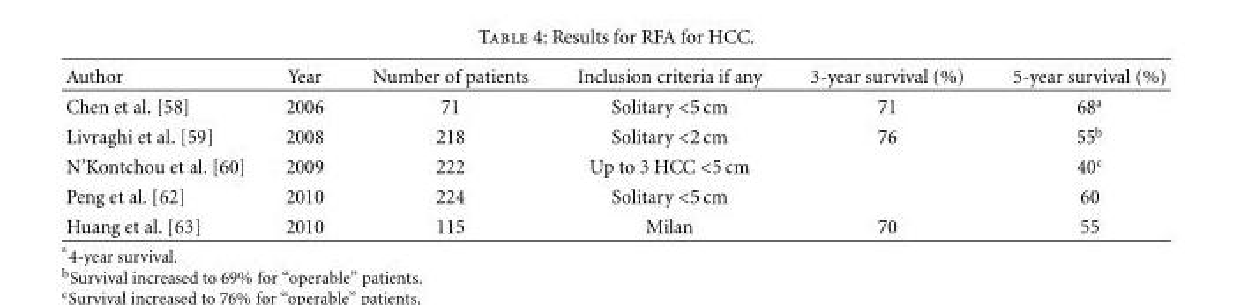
<table><thead><tr><td>Author</td><td>Year</td><td>Number of patients</td><td>Inclusion criteria if any</td><td>3-year survival (%)</td><td>5-year survival (%)</td></tr></thead><tbody><tr><td>Chen et al. [58]</td><td>2006</td><td>71</td><td>Solitary &lt;5 cm</td><td>71</td><td>68<sup>a</sup></td></tr><tr><td>Livraghi et al. [59]</td><td>2008</td><td>218</td><td>Solitary &lt;2 cm</td><td>76</td><td>55<sup>b</sup></td></tr><tr><td>N’Kontchou et al. [60]</td><td>2009</td><td>222</td><td>Up to 3 HCC &lt;5 cm</td><td></td><td>40<sup>c</sup></td></tr><tr><td>Peng et al. [62]</td><td>2010</td><td>224</td><td>Solitary &lt;5 cm</td><td></td><td>60</td></tr><tr><td>Huang et al. [63]</td><td>2010</td><td>115</td><td>Milan</td><td>70</td><td>55</td></tr></tbody></table>